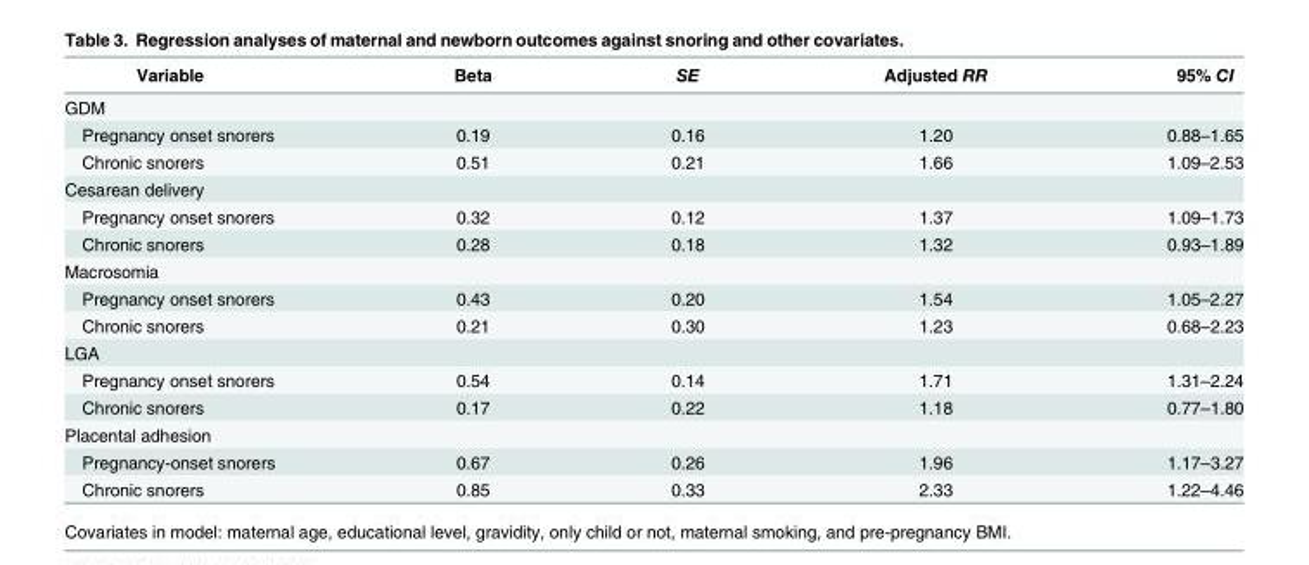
<table><thead><tr><td>Variable</td><td>Beta</td><td>SE</td><td>Adjusted RR</td><td>95% CI</td></tr></thead><tbody><tr><td colspan="5">GDM</td></tr><tr><td>Pregnancy onset snorers</td><td>0.19</td><td>0.16</td><td>1.20</td><td>0.88–1.65</td></tr><tr><td>Chronic snorers</td><td>0.51</td><td>0.21</td><td>1.66</td><td>1.09–2.53</td></tr><tr><td colspan="5">Cesarean delivery</td></tr><tr><td>Pregnancy onset snorers</td><td>0.32</td><td>0.12</td><td>1.37</td><td>1.09–1.73</td></tr><tr><td>Chronic snorers</td><td>0.28</td><td>0.18</td><td>1.32</td><td>0.93–1.89</td></tr><tr><td colspan="5">Macrosomia</td></tr><tr><td>Pregnancy onset snorers</td><td>0.43</td><td>0.20</td><td>1.54</td><td>1.05–2.27</td></tr><tr><td>Chronic snorers</td><td>0.21</td><td>0.30</td><td>1.23</td><td>0.68–2.23</td></tr><tr><td colspan="5">LGA</td></tr><tr><td>Pregnancy onset snorers</td><td>0.54</td><td>0.14</td><td>1.71</td><td>1.31–2.24</td></tr><tr><td>Chronic snorers</td><td>0.17</td><td>0.22</td><td>1.18</td><td>0.77–1.80</td></tr><tr><td colspan="5">Placental adhesion</td></tr><tr><td>Pregnancy-onset snorers</td><td>0.67</td><td>0.26</td><td>1.96</td><td>1.17–3.27</td></tr><tr><td>Chronic snorers</td><td>0.85</td><td>0.33</td><td>2.33</td><td>1.22–4.46</td></tr></tbody></table>